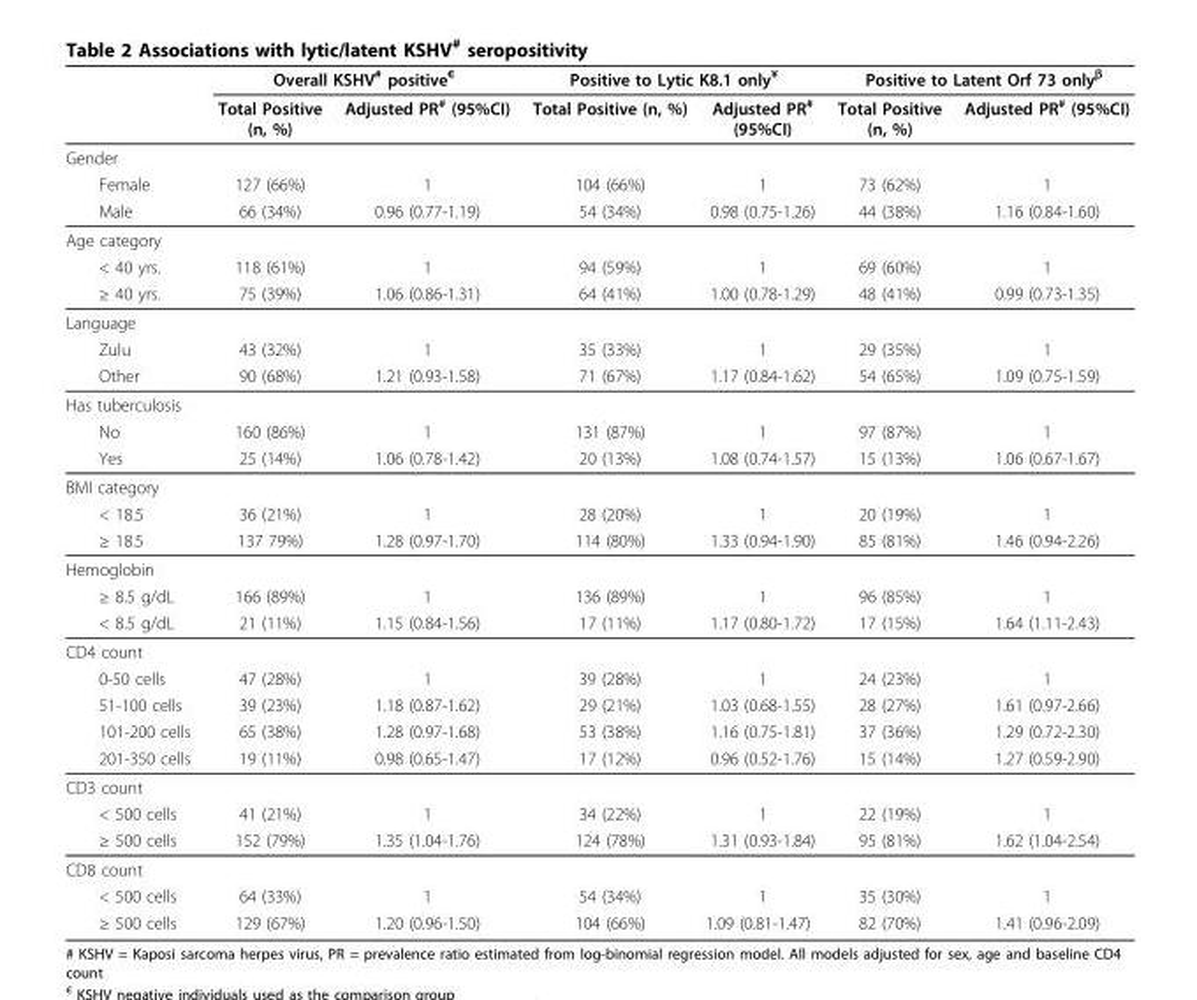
<table><thead><tr><td rowspan="2"></td><td colspan="2">Overall KSHV<sup>#</sup> positive<sup>€</sup></td><td colspan="2">Positive to Lytic K8.1 only<sup>¥</sup></td><td colspan="2">Positive to Latent Orf 73 only<sup>β</sup></td></tr><tr><td>Total Positive (n, %)</td><td>Adjusted PR<sup>#</sup> (95%CI)</td><td>Total Positive (n, %)</td><td>Adjusted PR<sup>#</sup> (95%CI)</td><td>Total Positive (n, %)</td><td>Adjusted PR<sup>#</sup> (95%CI)</td></tr></thead><tbody><tr><td colspan="7">Gender</td></tr><tr><td>Female</td><td>127 (66%)</td><td>1</td><td>104 (66%)</td><td>1</td><td>73 (62%)</td><td>1</td></tr><tr><td>Male</td><td>66 (34%)</td><td>0.96 (0.77-1.19)</td><td>54 (34%)</td><td>0.98 (0.75-1.26)</td><td>44 (38%)</td><td>1.16 (0.84-1.60)</td></tr><tr><td colspan="7">Age category</td></tr><tr><td>&lt; 40 yrs.</td><td>118 (61%)</td><td>1</td><td>94 (59%)</td><td>1</td><td>69 (60%)</td><td>1</td></tr><tr><td>≥ 40 yrs.</td><td>75 (39%)</td><td>1.06 (0.86-1.31)</td><td>64 (41%)</td><td>1.00 (0.78-1.29)</td><td>48 (41%)</td><td>0.99 (0.73-1.35)</td></tr><tr><td colspan="7">Language</td></tr><tr><td>Zulu</td><td>43 (32%)</td><td>1</td><td>35 (33%)</td><td>1</td><td>29 (35%)</td><td>1</td></tr><tr><td>Other</td><td>90 (68%)</td><td>1.21 (0.93-1.58)</td><td>71 (67%)</td><td>1.17 (0.84-1.62)</td><td>54 (65%)</td><td>1.09 (0.75-1.59)</td></tr><tr><td colspan="7">Has tuberculosis</td></tr><tr><td>No</td><td>160 (86%)</td><td>1</td><td>131 (87%)</td><td>1</td><td>97 (87%)</td><td>1</td></tr><tr><td>Yes</td><td>25 (14%)</td><td>1.06 (0.78-1.42)</td><td>20 (13%)</td><td>1.08 (0.74-1.57)</td><td>15 (13%)</td><td>1.06 (0.67-1.67)</td></tr><tr><td colspan="7">BMI category</td></tr><tr><td>&lt; 18.5</td><td>36 (21%)</td><td>1</td><td>28 (20%)</td><td>1</td><td>20 (19%)</td><td>1</td></tr><tr><td>≥ 18.5</td><td>137 79%)</td><td>1.28 (0.97-1.70)</td><td>114 (80%)</td><td>1.33 (0.94-1.90)</td><td>85 (81%)</td><td>1.46 (0.94-2.26)</td></tr><tr><td colspan="7">Hemoglobin</td></tr><tr><td>≥ 8.5 g/dL</td><td>166 (89%)</td><td>1</td><td>136 (89%)</td><td>1</td><td>96 (85%)</td><td>1</td></tr><tr><td>&lt; 8.5 g/dL</td><td>21 (11%)</td><td>1.15 (0.84-1.56)</td><td>17 (11%)</td><td>1.17 (0.80-1.72)</td><td>17 (15%)</td><td>1.64 (1.11-2.43)</td></tr><tr><td colspan="7">CD4 count</td></tr><tr><td>0-50 cells</td><td>47 (28%)</td><td>1</td><td>39 (28%)</td><td>1</td><td>24 (23%)</td><td>1</td></tr><tr><td>51-100 cells</td><td>39 (23%)</td><td>1.18 (0.87-1.62)</td><td>29 (21%)</td><td>1.03 (0.68-1.55)</td><td>28 (27%)</td><td>1.61 (0.97-2.66)</td></tr><tr><td>101-200 cells</td><td>65 (38%)</td><td>1.28 (0.97-1.68)</td><td>53 (38%)</td><td>1.16 (0.75-1.81)</td><td>37 (36%)</td><td>1.29 (0.72-2.30)</td></tr><tr><td>201-350 cells</td><td>19 (11%)</td><td>0.98 (0.65-1.47)</td><td>17 (12%)</td><td>0.96 (0.52-1.76)</td><td>15 (14%)</td><td>1.27 (0.59-2.90)</td></tr><tr><td colspan="7">CD3 count</td></tr><tr><td>&lt; 500 cells</td><td>41 (21%)</td><td>1</td><td>34 (22%)</td><td>1</td><td>22 (19%)</td><td>1</td></tr><tr><td>≥ 500 cells</td><td>152 (79%)</td><td>1.35 (1.04-1.76)</td><td>124 (78%)</td><td>1.31 (0.93-1.84)</td><td>95 (81%)</td><td>1.62 (1.04-2.54)</td></tr><tr><td colspan="7">CD8 count</td></tr><tr><td>&lt; 500 cells</td><td>64 (33%)</td><td>1</td><td>54 (34%)</td><td>1</td><td>35 (30%)</td><td>1</td></tr><tr><td>≥ 500 cells</td><td>129 (67%)</td><td>1.20 (0.96-1.50)</td><td>104 (66%)</td><td>1.09 (0.81-1.47)</td><td>82 (70%)</td><td>1.41 (0.96-2.09)</td></tr></tbody></table>